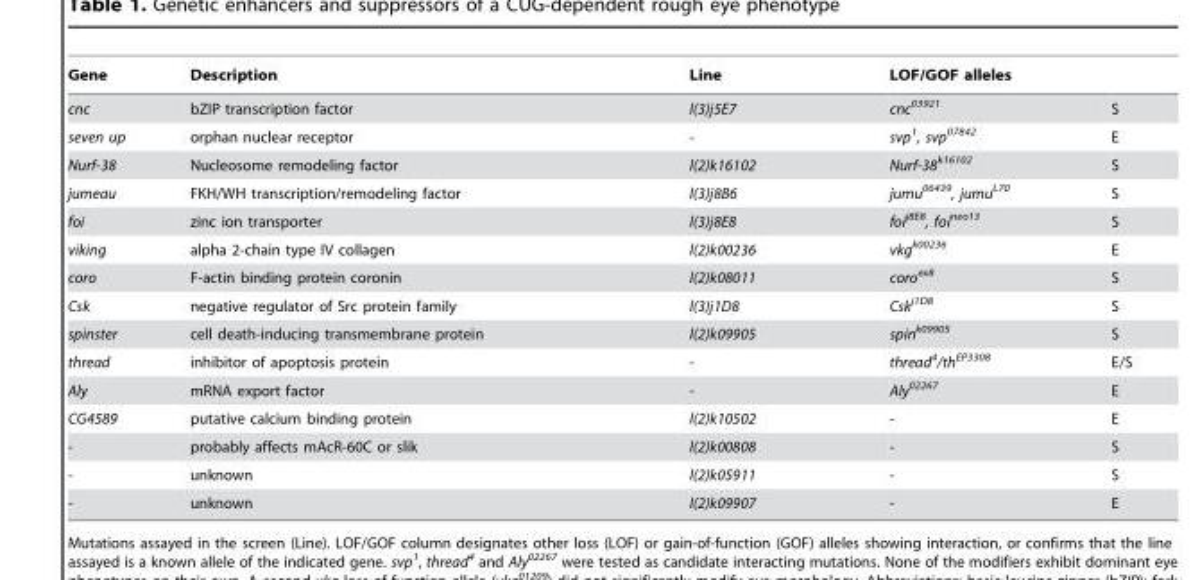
<table><thead><tr><td>Gene</td><td>Description</td><td>Line</td><td>LOF/GOF alleles</td><td></td></tr></thead><tbody><tr><td>cnc</td><td>bZIP transcription factor</td><td>l(3)j5E7</td><td>cnc<sup>03921</sup></td><td>S</td></tr><tr><td>seven up</td><td>orphan nuclear receptor</td><td>-</td><td>svp<sup>1</sup>, svp<sup>07842</sup></td><td>E</td></tr><tr><td>Nurf-38</td><td>Nucleosome remodeling factor</td><td>l(2)k16102</td><td>Nurf-38<sup>k16102</sup></td><td>S</td></tr><tr><td>jumeau</td><td>FKH/WH transcription/remodeling factor</td><td>l(3)j8B6</td><td>jumu<sup>06439</sup>, jumu<sup>L70</sup></td><td>S</td></tr><tr><td>foi</td><td>zinc ion transporter</td><td>l(3)j8E8</td><td>foi<sup>j8E8</sup>, foi<sup>neo13</sup></td><td>S</td></tr><tr><td>viking</td><td>alpha 2-chain type IV collagen</td><td>l(2)k00236</td><td>vkg<sup>k00236</sup></td><td>E</td></tr><tr><td>coro</td><td>F-actin binding protein coronin</td><td>l(2)k08011</td><td>coro<sup>ex8</sup></td><td>S</td></tr><tr><td>Csk</td><td>negative regulator of Src protein family</td><td>l(3)j1D8</td><td>Csk<sup>j1D8</sup></td><td>S</td></tr><tr><td>spinster</td><td>cell death-inducing transmembrane protein</td><td>l(2)k09905</td><td>spin<sup>k09905</sup></td><td>S</td></tr><tr><td>thread</td><td>inhibitor of apoptosis protein</td><td>-</td><td>thread<sup>4</sup>/th<sup>EP3308</sup></td><td>E/S</td></tr><tr><td>Aly</td><td>mRNA export factor</td><td>-</td><td>Aly<sup>02267</sup></td><td>E</td></tr><tr><td>CG4589</td><td>putative calcium binding protein</td><td>l(2)k10502</td><td>-</td><td>E</td></tr><tr><td>-</td><td>probably affects mAcR-60C or slik</td><td>l(2)k00808</td><td>-</td><td>S</td></tr><tr><td>-</td><td>unknown</td><td>l(2)k05911</td><td>-</td><td>S</td></tr><tr><td>-</td><td>unknown</td><td>l(2)k09907</td><td>-</td><td>E</td></tr></tbody></table>